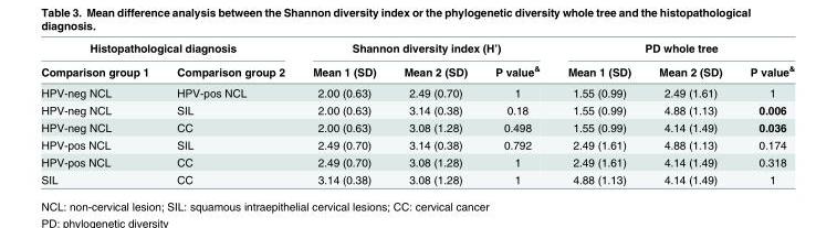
<table><thead><tr><td colspan="2">Histopathological diagnosis</td><td colspan="3">Shannon diversity index (H’)</td><td colspan="3">PD whole tree</td></tr><tr><td>Comparison group 1</td><td>Comparison group 2</td><td>Mean 1 (SD)</td><td>Mean 2 (SD)</td><td>P value<sup>&amp;</sup></td><td>Mean 1 (SD)</td><td>Mean 2 (SD)</td><td>P value<sup>&amp;</sup></td></tr></thead><tbody><tr><td>HPV-neg NCL</td><td>HPV-pos NCL</td><td>2.00 (0.63)</td><td>2.49 (0.70)</td><td>1</td><td>1.55 (0.99)</td><td>2.49 (1.61)</td><td>1</td></tr><tr><td>HPV-neg NCL</td><td>SIL</td><td>2.00 (0.63)</td><td>3.14 (0.38)</td><td>0.18</td><td>1.55 (0.99)</td><td>4.88 (1.13)</td><td>0.006</td></tr><tr><td>HPV-neg NCL</td><td>CC</td><td>2.00 (0.63)</td><td>3.08 (1.28)</td><td>0.498</td><td>1.55 (0.99)</td><td>4.14 (1.49)</td><td>0.036</td></tr><tr><td>HPV-pos NCL</td><td>SIL</td><td>2.49 (0.70)</td><td>3.14 (0.38)</td><td>0.792</td><td>2.49 (1.61)</td><td>4.88 (1.13)</td><td>0.174</td></tr><tr><td>HPV-pos NCL</td><td>CC</td><td>2.49 (0.70)</td><td>3.08 (1.28)</td><td>1</td><td>2.49 (1.61)</td><td>4.14 (1.49)</td><td>0.318</td></tr><tr><td>SIL</td><td>CC</td><td>3.14 (0.38)</td><td>3.08 (1.28)</td><td>1</td><td>4.88 (1.13)</td><td>4.14 (1.49)</td><td>1</td></tr></tbody></table>